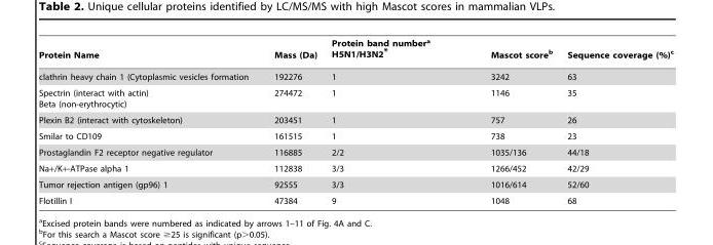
<table><thead><tr><td>Protein Name</td><td>Mass (Da)</td><td>Protein band number<sup>a</sup> H5N1/H3N2*</td><td>Mascot score<sup>b</sup></td><td>Sequence coverage (%)<sup>c</sup></td></tr></thead><tbody><tr><td>clathrin heavy chain 1 (Cytoplasmic vesicles formation</td><td>192276</td><td>1</td><td>3242</td><td>63</td></tr><tr><td>Spectrin (interact with actin) Beta (non-erythrocytic)</td><td>274472</td><td>1</td><td>1146</td><td>35</td></tr><tr><td>Plexin B2 (interact with cytoskeleton)</td><td>203451</td><td>1</td><td>757</td><td>26</td></tr><tr><td>Smilar to CD109</td><td>161515</td><td>1</td><td>738</td><td>23</td></tr><tr><td>Prostaglandin F2 receptor negative regulator</td><td>116885</td><td>2/2</td><td>1035/136</td><td>44/18</td></tr><tr><td>Na+/K+-ATPase alpha 1</td><td>112838</td><td>3/3</td><td>1266/452</td><td>42/29</td></tr><tr><td>Tumor rejection antigen (gp96) 1</td><td>92555</td><td>3/3</td><td>1016/614</td><td>52/60</td></tr><tr><td>Flotillin I</td><td>47384</td><td>9</td><td>1048</td><td>68</td></tr></tbody></table>